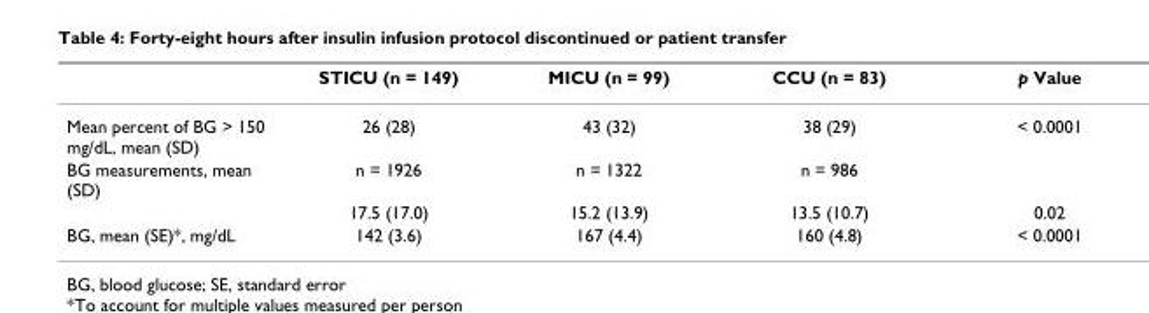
<table><thead><tr><td></td><td>STICU (n = 149)</td><td>MICU (n = 99)</td><td>CCU (n = 83)</td><td>p Value</td></tr></thead><tbody><tr><td>Mean percent of BG &gt; 150 mg/dL, mean (SD)</td><td>26 (28)</td><td>43 (32)</td><td>38 (29)</td><td>&lt; 0.0001</td></tr><tr><td rowspan="2">BG measurements, mean (SD)</td><td>n = 1926</td><td>n = 1322</td><td>n = 986</td><td></td></tr><tr><td>17.5 (17.0)</td><td>15.2 (13.9)</td><td>13.5 (10.7)</td><td>0.02</td></tr><tr><td>BG, mean (SE)*, mg/dL</td><td>142 (3.6)</td><td>167 (4.4)</td><td>160 (4.8)</td><td>&lt; 0.0001</td></tr></tbody></table>